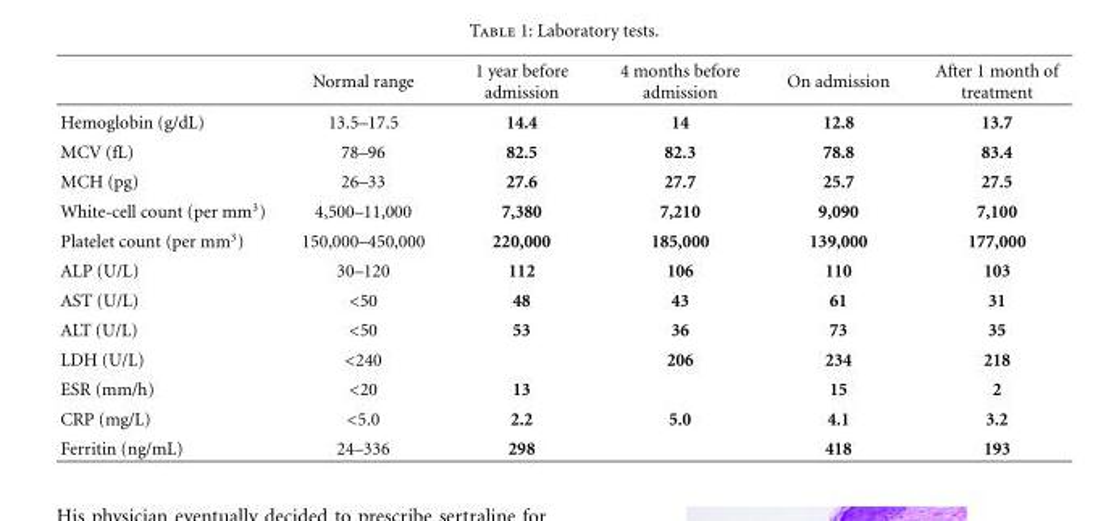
<table><thead><tr><td></td><td>Normal range</td><td>1 year before admission</td><td>4 months before admission</td><td>On admission</td><td>After 1 month of treatment</td></tr></thead><tbody><tr><td>Hemoglobin (g/dL)</td><td>13.5–17.5</td><td>14.4</td><td>14</td><td>12.8</td><td>13.7</td></tr><tr><td>MCV (fL)</td><td>78–96</td><td>82.5</td><td>82.3</td><td>78.8</td><td>83.4</td></tr><tr><td>MCH (pg)</td><td>26–33</td><td>27.6</td><td>27.7</td><td>25.7</td><td>27.5</td></tr><tr><td>White-cell count (per mm<sup>3</sup>)</td><td>4,500–11,000</td><td>7,380</td><td>7,210</td><td>9,090</td><td>7,100</td></tr><tr><td>Platelet count (per mm<sup>3</sup>)</td><td>150,000–450,000</td><td>220,000</td><td>185,000</td><td>139,000</td><td>177,000</td></tr><tr><td>ALP (U/L)</td><td>30–120</td><td>112</td><td>106</td><td>110</td><td>103</td></tr><tr><td>AST (U/L)</td><td>&lt;50</td><td>48</td><td>43</td><td>61</td><td>31</td></tr><tr><td>ALT (U/L)</td><td>&lt;50</td><td>53</td><td>36</td><td>73</td><td>35</td></tr><tr><td>LDH (U/L)</td><td>&lt;240</td><td></td><td>206</td><td>234</td><td>218</td></tr><tr><td>ESR (mm/h)</td><td>&lt;20</td><td>13</td><td></td><td>15</td><td>2</td></tr><tr><td>CRP (mg/L)</td><td>&lt;5.0</td><td>2.2</td><td>5.0</td><td>4.1</td><td>3.2</td></tr><tr><td>Ferritin (ng/mL)</td><td>24–336</td><td>298</td><td></td><td>418</td><td>193</td></tr></tbody></table>